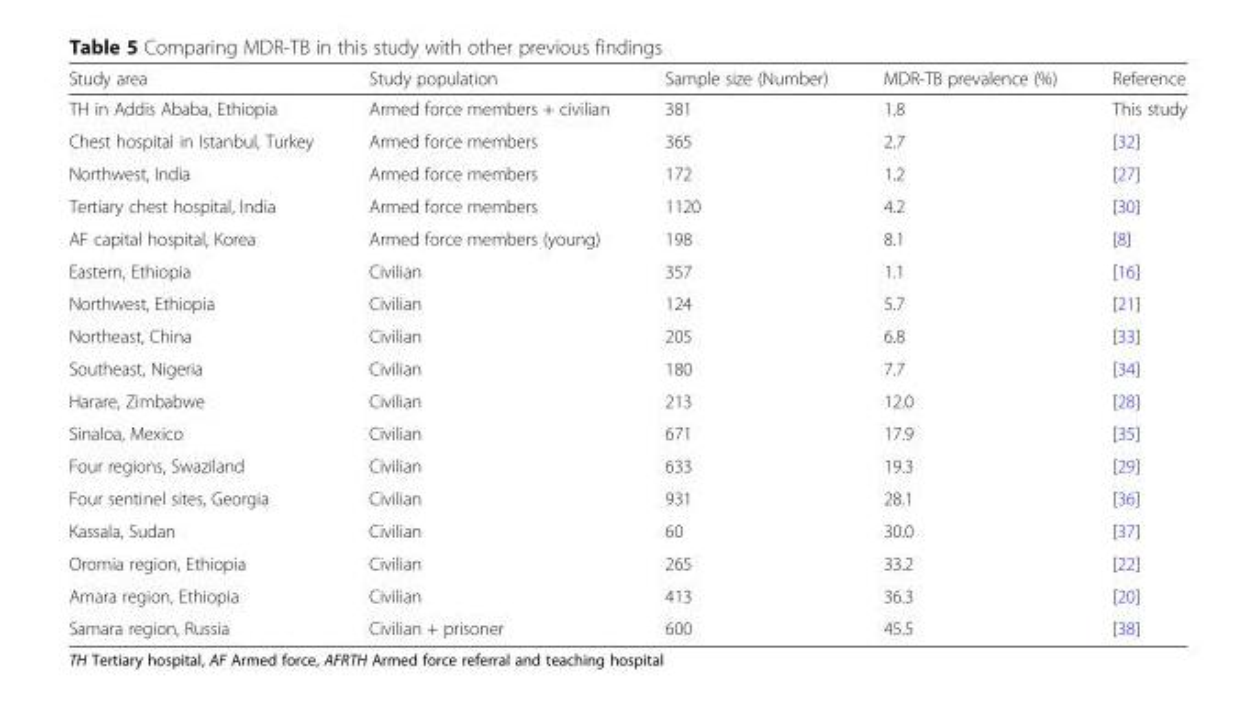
<table><thead><tr><td>Study area</td><td>Study population</td><td>Sample size (Number)</td><td>MDR-TB prevalence (%)</td><td>Reference</td></tr></thead><tbody><tr><td>TH in Addis Ababa, Ethiopia</td><td>Armed force members + civilian</td><td>381</td><td>1.8</td><td>This study</td></tr><tr><td>Chest hospital in Istanbul, Turkey</td><td>Armed force members</td><td>365</td><td>2.7</td><td>[32]</td></tr><tr><td>Northwest, India</td><td>Armed force members</td><td>172</td><td>1.2</td><td>[27]</td></tr><tr><td>Tertiary chest hospital, India</td><td>Armed force members</td><td>1120</td><td>4.2</td><td>[30]</td></tr><tr><td>AF capital hospital, Korea</td><td>Armed force members (young)</td><td>198</td><td>8.1</td><td>[8]</td></tr><tr><td>Eastern, Ethiopia</td><td>Civilian</td><td>357</td><td>1.1</td><td>[16]</td></tr><tr><td>Northwest, Ethiopia</td><td>Civilian</td><td>124</td><td>5.7</td><td>[21]</td></tr><tr><td>Northeast, China</td><td>Civilian</td><td>205</td><td>6.8</td><td>[33]</td></tr><tr><td>Southeast, Nigeria</td><td>Civilian</td><td>180</td><td>7.7</td><td>[34]</td></tr><tr><td>Harare, Zimbabwe</td><td>Civilian</td><td>213</td><td>12.0</td><td>[28]</td></tr><tr><td>Sinaloa, Mexico</td><td>Civilian</td><td>671</td><td>17.9</td><td>[35]</td></tr><tr><td>Four regions, Swaziland</td><td>Civilian</td><td>633</td><td>19.3</td><td>[29]</td></tr><tr><td>Four sentinel sites, Georgia</td><td>Civilian</td><td>931</td><td>28.1</td><td>[36]</td></tr><tr><td>Kassala, Sudan</td><td>Civilian</td><td>60</td><td>30.0</td><td>[37]</td></tr><tr><td>Oromia region, Ethiopia</td><td>Civilian</td><td>265</td><td>33.2</td><td>[22]</td></tr><tr><td>Amara region, Ethiopia</td><td>Civilian</td><td>413</td><td>36.3</td><td>[20]</td></tr><tr><td>Samara region, Russia</td><td>Civilian + prisoner</td><td>600</td><td>45.5</td><td>[38]</td></tr></tbody></table>